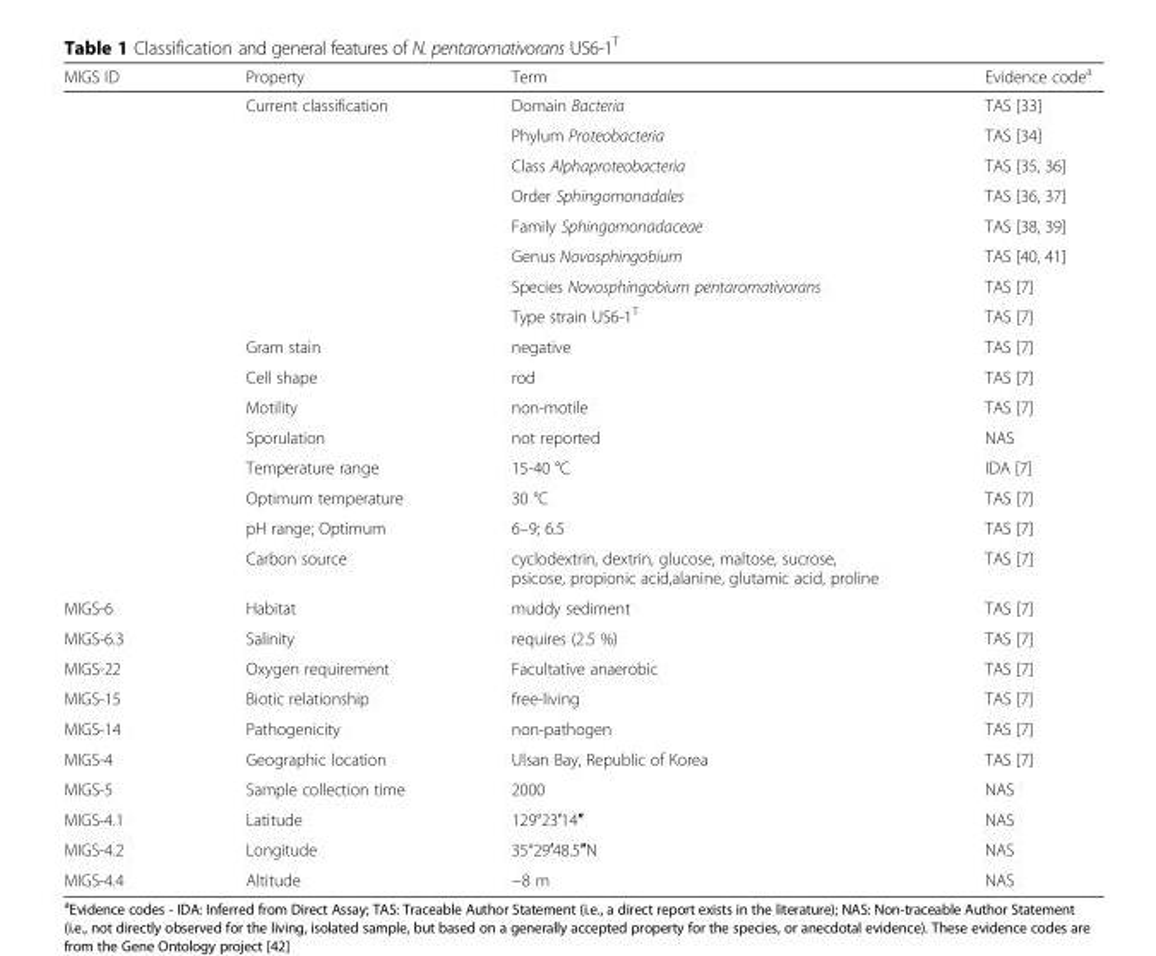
<table><thead><tr><td>MIGS ID</td><td>Property</td><td>Term</td><td>Evidence code<sup>a</sup></td></tr></thead><tbody><tr><td></td><td>Current classification</td><td>Domain Bacteria</td><td>TAS [33]</td></tr><tr><td></td><td></td><td>Phylum Proteobacteria</td><td>TAS [34]</td></tr><tr><td></td><td></td><td>Class Alphaproteobacteria</td><td>TAS [35, 36]</td></tr><tr><td></td><td></td><td>Order Sphingomonadales</td><td>TAS [36, 37]</td></tr><tr><td></td><td></td><td>Family Sphingomonadaceae</td><td>TAS [38, 39]</td></tr><tr><td></td><td></td><td>Genus Novosphingobium</td><td>TAS [40, 41]</td></tr><tr><td></td><td></td><td>Species Novosphingobium pentaromativorans</td><td>TAS [7]</td></tr><tr><td></td><td></td><td>Type strain US6-1<sup>T</sup></td><td>TAS [7]</td></tr><tr><td></td><td>Gram stain</td><td>negative</td><td>TAS [7]</td></tr><tr><td></td><td>Cell shape</td><td>rod</td><td>TAS [7]</td></tr><tr><td></td><td>Motility</td><td>non-motile</td><td>TAS [7]</td></tr><tr><td></td><td>Sporulation</td><td>not reported</td><td>NAS</td></tr><tr><td></td><td>Temperature range</td><td>15-40 °C</td><td>IDA [7]</td></tr><tr><td></td><td>Optimum temperature</td><td>30 °C</td><td>TAS [7]</td></tr><tr><td></td><td>pH range; Optimum</td><td>6–9; 6.5</td><td>TAS [7]</td></tr><tr><td></td><td>Carbon source</td><td>cyclodextrin, dextrin, glucose, maltose, sucrose, psicose, propionic acid,alanine, glutamic acid, proline</td><td>TAS [7]</td></tr><tr><td>MIGS-6</td><td>Habitat</td><td>muddy sediment</td><td>TAS [7]</td></tr><tr><td>MIGS-6.3</td><td>Salinity</td><td>requires (2.5 %)</td><td>TAS [7]</td></tr><tr><td>MIGS-22</td><td>Oxygen requirement</td><td>Facultative anaerobic</td><td>TAS [7]</td></tr><tr><td>MIGS-15</td><td>Biotic relationship</td><td>free-living</td><td>TAS [7]</td></tr><tr><td>MIGS-14</td><td>Pathogenicity</td><td>non-pathogen</td><td>TAS [7]</td></tr><tr><td>MIGS-4</td><td>Geographic location</td><td>Ulsan Bay, Republic of Korea</td><td>TAS [7]</td></tr><tr><td>MIGS-5</td><td>Sample collection time</td><td>2000</td><td>NAS</td></tr><tr><td>MIGS-4.1</td><td>Latitude</td><td>129°23′14″</td><td>NAS</td></tr><tr><td>MIGS-4.2</td><td>Longitude</td><td>35°29′48.5″N</td><td>NAS</td></tr><tr><td>MIGS-4.4</td><td>Altitude</td><td>−8 m</td><td>NAS</td></tr></tbody></table>